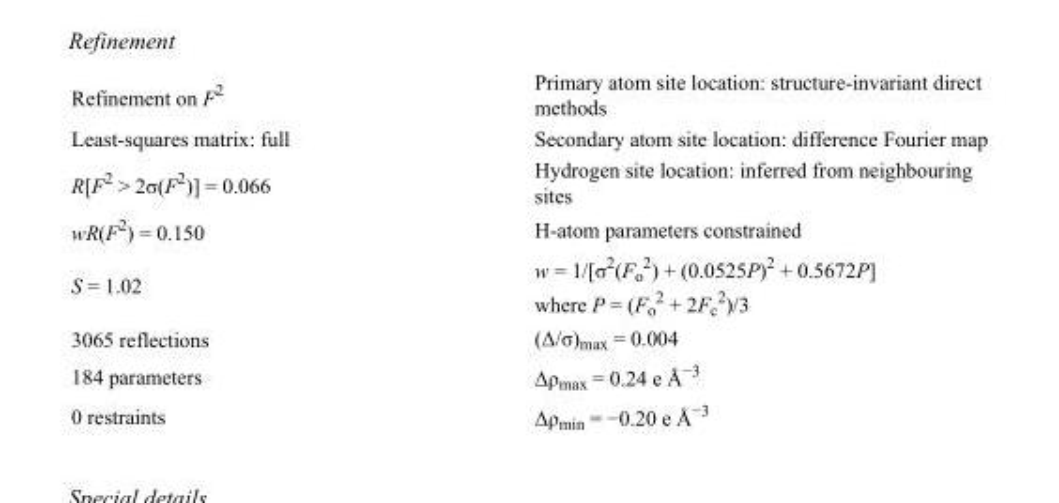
<table><tbody><tr><td>Refinement on F<sup>2</sup></td><td>Primary atom site location: structure-invariant direct methods</td></tr><tr><td>Least-squares matrix: full</td><td>Secondary atom site location: difference Fourier map</td></tr><tr><td>R[F<sup>2</sup> &gt; 2σ(F<sup>2</sup>)] = 0.066</td><td>Hydrogen site location: inferred from neighbouring sites</td></tr><tr><td>wR(F<sup>2</sup>) = 0.150</td><td>H-atom parameters constrained</td></tr><tr><td>S = 1.02</td><td>w = 1/[σ<sup>2</sup>(F<sub>o</sub> <sup>2</sup>) + (0.0525P)<sup>2</sup> + 0.5672P] where P = (F<sub>o</sub> <sup>2</sup> + 2F<sub>c</sub> <sup>2</sup>)/3</td></tr><tr><td>3065 reflections</td><td>(Δ/σ)<sub>max</sub> = 0.004</td></tr><tr><td>184 parameters</td><td>Δρ<sub>max</sub> = 0.24 e Å<sup>−3</sup></td></tr><tr><td>0 restraints</td><td>Δρ<sub>min</sub> = −0.20 e Å<sup>−3</sup></td></tr></tbody></table>